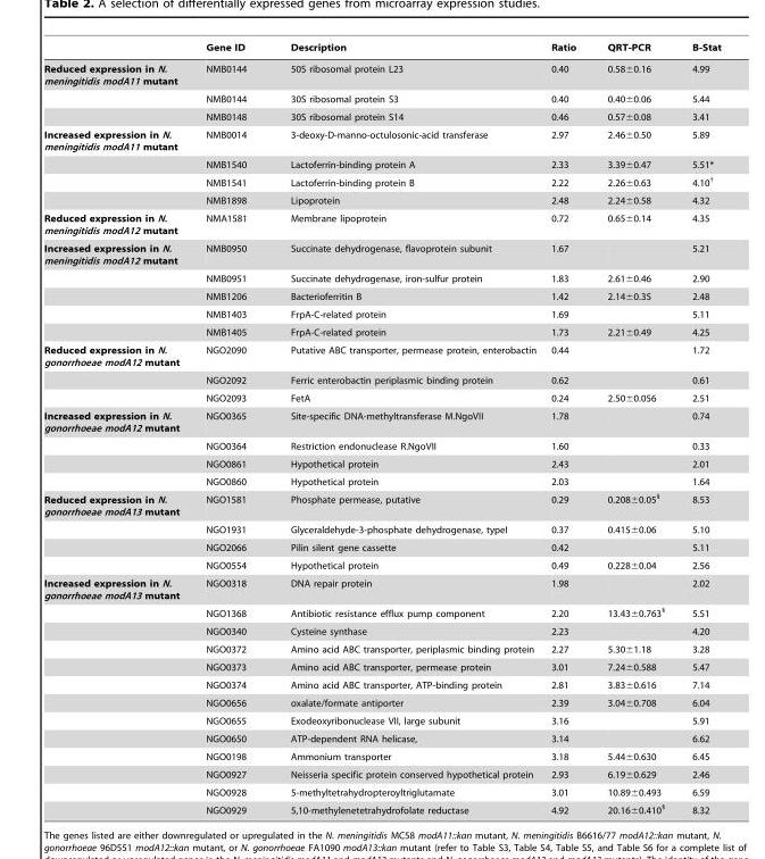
<table><thead><tr><td></td><td>Gene ID</td><td>Description</td><td>Ratio</td><td>QRT-PCR</td><td>B-Stat</td></tr></thead><tbody><tr><td rowspan="3">Reduced expression in N. meningitidis modA11 mutant</td><td>NMB0144</td><td>50S ribosomal protein L23</td><td>0.40</td><td>0.58±0.16</td><td>4.99</td></tr><tr><td>NMB0144</td><td>30S ribosomal protein S3</td><td>0.40</td><td>0.40±0.06</td><td>5.44</td></tr><tr><td>NMB0148</td><td>30S ribosomal protein S14</td><td>0.46</td><td>0.57±0.08</td><td>3.41</td></tr><tr><td rowspan="4">Increased expression in N. meningitidis modA11 mutant</td><td>NMB0014</td><td>3-deoxy-D-manno-octulosonic-acid transferase</td><td>2.97</td><td>2.46±0.50</td><td>5.89</td></tr><tr><td>NMB1540</td><td>Lactoferrin-binding protein A</td><td>2.33</td><td>3.39±0.47</td><td>5.51*</td></tr><tr><td>NMB1541</td><td>Lactoferrin-binding protein B</td><td>2.22</td><td>2.26±0.63</td><td>4.10†</td></tr><tr><td>NMB1898</td><td>Lipoprotein</td><td>2.48</td><td>2.24±0.58</td><td>4.32</td></tr><tr><td>Reduced expression in N. meningitidis modA12 mutant</td><td>NMA1581</td><td>Membrane lipoprotein</td><td>0.72</td><td>0.65±0.14</td><td>4.35</td></tr><tr><td rowspan="5">Increased expression in N. meningitidis modA12 mutant</td><td>NMB0950</td><td>Succinate dehydrogenase, flavoprotein subunit</td><td>1.67</td><td></td><td>5.21</td></tr><tr><td>NMB0951</td><td>Succinate dehydrogenase, iron-sulfur protein</td><td>1.83</td><td>2.61±0.46</td><td>2.90</td></tr><tr><td>NMB1206</td><td>Bacterioferritin B</td><td>1.42</td><td>2.14±0.35</td><td>2.48</td></tr><tr><td>NMB1403</td><td>FrpA-C-related protein</td><td>1.69</td><td></td><td>5.11</td></tr><tr><td>NMB1405</td><td>FrpA-C-related protein</td><td>1.73</td><td>2.21±0.49</td><td>4.25</td></tr><tr><td rowspan="3">Reduced expression in N. gonorrhoeae modA12 mutant</td><td>NGO2090</td><td>Putative ABC transporter, permease protein, enterobactin</td><td>0.44</td><td></td><td>1.72</td></tr><tr><td>NGO2092</td><td>Ferric enterobactin periplasmic binding protein</td><td>0.62</td><td></td><td>0.61</td></tr><tr><td>NGO2093</td><td>FetA</td><td>0.24</td><td>2.50±0.056</td><td>2.51</td></tr><tr><td rowspan="4">Increased expression in N. gonorrhoeae modA12 mutant</td><td>NGO0365</td><td>Site-specific DNA-methyltransferase M.NgoVII</td><td>1.78</td><td></td><td>0.74</td></tr><tr><td>NGO0364</td><td>Restriction endonuclease R.NgoVII</td><td>1.60</td><td></td><td>0.33</td></tr><tr><td>NGO0861</td><td>Hypothetical protein</td><td>2.43</td><td></td><td>2.01</td></tr><tr><td>NGO0860</td><td>Hypothetical protein</td><td>2.03</td><td></td><td>1.64</td></tr><tr><td rowspan="4">Reduced expression in N. gonorrhoeae modA13 mutant</td><td>NGO1581</td><td>Phosphate permease, putative</td><td>0.29</td><td>0.208±0.05§</td><td>8.53</td></tr><tr><td>NGO1931</td><td>Glyceraldehyde-3-phosphate dehydrogenase, typeI</td><td>0.37</td><td>0.415±0.06</td><td>5.10</td></tr><tr><td>NGO2066</td><td>Pilin silent gene cassette</td><td>0.42</td><td></td><td>5.11</td></tr><tr><td>NGO0554</td><td>Hypothetical protein</td><td>0.49</td><td>0.228±0.04</td><td>2.56</td></tr><tr><td rowspan="13">Increased expression in N. gonorrhoeae modA13 mutant</td><td>NGO0318</td><td>DNA repair protein</td><td>1.98</td><td></td><td>2.02</td></tr><tr><td>NGO1368</td><td>Antibiotic resistance efflux pump component</td><td>2.20</td><td>13.43±0.763§</td><td>5.51</td></tr><tr><td>NGO0340</td><td>Cysteine synthase</td><td>2.23</td><td></td><td>4.20</td></tr><tr><td>NGO0372</td><td>Amino acid ABC transporter, periplasmic binding protein</td><td>2.27</td><td>5.30±1.18</td><td>3.28</td></tr><tr><td>NGO0373</td><td>Amino acid ABC transporter, permease protein</td><td>3.01</td><td>7.24±0.588</td><td>5.47</td></tr><tr><td>NGO0374</td><td>Amino acid ABC transporter, ATP-binding protein</td><td>2.81</td><td>3.83±0.616</td><td>7.14</td></tr><tr><td>NGO0656</td><td>oxalate/formate antiporter</td><td>2.39</td><td>3.04±0.708</td><td>6.04</td></tr><tr><td>NGO0655</td><td>Exodeoxyribonuclease VII, large subunit</td><td>3.16</td><td></td><td>5.91</td></tr><tr><td>NGO0650</td><td>ATP-dependent RNA helicase,</td><td>3.14</td><td></td><td>6.62</td></tr><tr><td>NGO0198</td><td>Ammonium transporter</td><td>3.18</td><td>5.44±0.630</td><td>6.45</td></tr><tr><td>NGO0927</td><td>Neisseria specific protein conserved hypothetical protein</td><td>2.93</td><td>6.19±0.629</td><td>2.46</td></tr><tr><td>NGO0928</td><td>5-methyltetrahydropteroyltriglutamate</td><td>3.01</td><td>10.89±0.493</td><td>6.59</td></tr><tr><td>NGO0929</td><td>5,10-methylenetetrahydrofolate reductase</td><td>4.92</td><td>20.16±0.410§</td><td>8.32</td></tr></tbody></table>